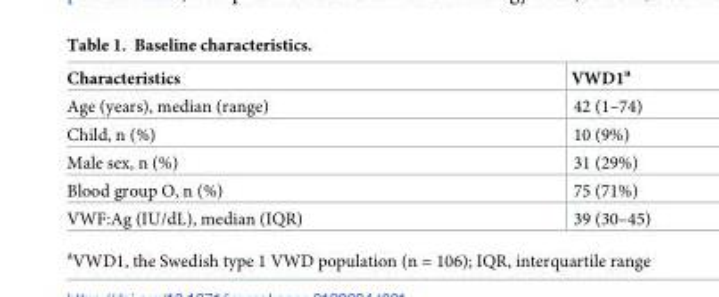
<table><thead><tr><td>Characteristics</td><td>VWD1<sup>a</sup></td></tr></thead><tbody><tr><td>Age (years), median (range)</td><td>42 (1–74)</td></tr><tr><td>Child, n (%)</td><td>10 (9%)</td></tr><tr><td>Male sex, n (%)</td><td>31 (29%)</td></tr><tr><td>Blood group O, n (%)</td><td>75 (71%)</td></tr><tr><td>VWF:Ag (IU/dL), median (IQR)</td><td>39 (30–45)</td></tr></tbody></table>